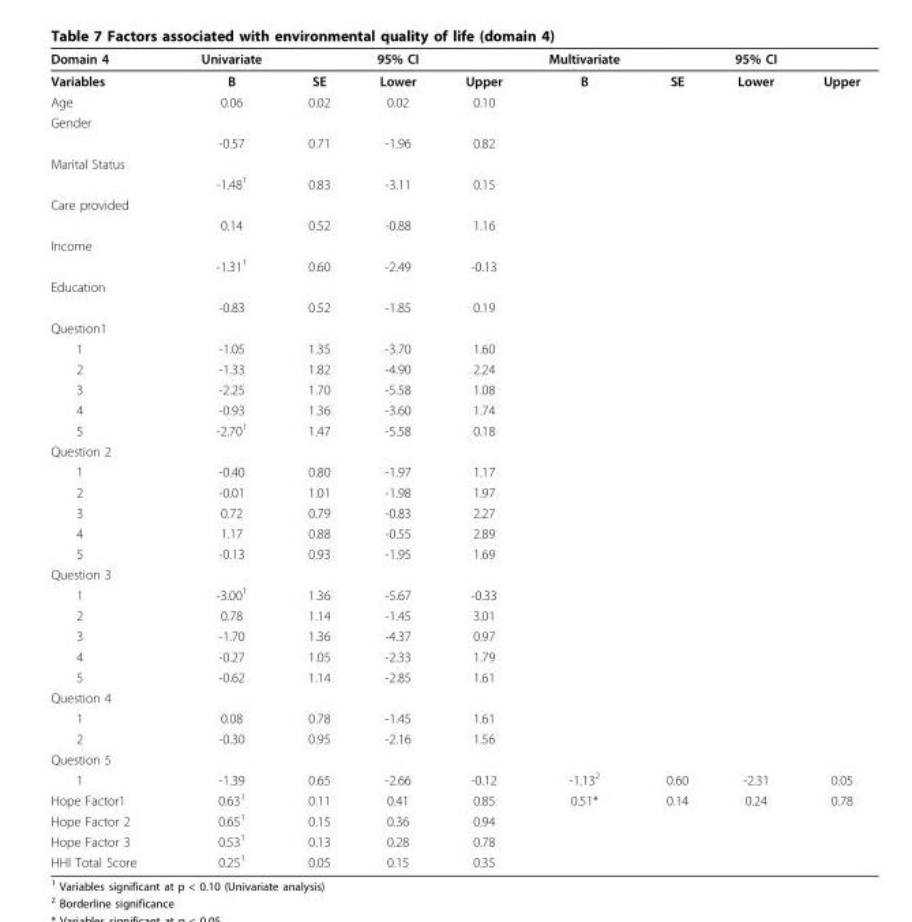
<table><thead><tr><td>Domain 4</td><td>Univariate</td><td></td><td>95% CI</td><td></td><td>Multivariate</td><td></td><td>95% CI</td><td></td></tr></thead><tbody><tr><td>Variables</td><td>B</td><td>SE</td><td>Lower</td><td>Upper</td><td>B</td><td>SE</td><td>Lower</td><td>Upper</td></tr><tr><td>Age</td><td>0.06</td><td>0.02</td><td>0.02</td><td>0.10</td><td></td><td></td><td></td><td></td></tr><tr><td colspan="9">Gender</td></tr><tr><td></td><td>-0.57</td><td>0.71</td><td>-1.96</td><td>0.82</td><td></td><td></td><td></td><td></td></tr><tr><td colspan="9">Marital Status</td></tr><tr><td></td><td>-1.48<sup>1</sup></td><td>0.83</td><td>-3.11</td><td>0.15</td><td></td><td></td><td></td><td></td></tr><tr><td colspan="9">Care provided</td></tr><tr><td></td><td>0.14</td><td>0.52</td><td>-0.88</td><td>1.16</td><td></td><td></td><td></td><td></td></tr><tr><td colspan="9">Income</td></tr><tr><td></td><td>-1.31<sup>1</sup></td><td>0.60</td><td>-2.49</td><td>-0.13</td><td></td><td></td><td></td><td></td></tr><tr><td colspan="9">Education</td></tr><tr><td></td><td>-0.83</td><td>0.52</td><td>-1.85</td><td>0.19</td><td></td><td></td><td></td><td></td></tr><tr><td colspan="9">Question1</td></tr><tr><td>1</td><td>-1.05</td><td>1.35</td><td>-3.70</td><td>1.60</td><td></td><td></td><td></td><td></td></tr><tr><td>2</td><td>-1.33</td><td>1.82</td><td>-4.90</td><td>2.24</td><td></td><td></td><td></td><td></td></tr><tr><td>3</td><td>-2.25</td><td>1.70</td><td>-5.58</td><td>1.08</td><td></td><td></td><td></td><td></td></tr><tr><td>4</td><td>-0.93</td><td>1.36</td><td>-3.60</td><td>1.74</td><td></td><td></td><td></td><td></td></tr><tr><td>5</td><td>-2.70<sup>1</sup></td><td>1.47</td><td>-5.58</td><td>0.18</td><td></td><td></td><td></td><td></td></tr><tr><td colspan="9">Question 2</td></tr><tr><td>1</td><td>-0.40</td><td>0.80</td><td>-1.97</td><td>1.17</td><td></td><td></td><td></td><td></td></tr><tr><td>2</td><td>-0.01</td><td>1.01</td><td>-1.98</td><td>1.97</td><td></td><td></td><td></td><td></td></tr><tr><td>3</td><td>0.72</td><td>0.79</td><td>-0.83</td><td>2.27</td><td></td><td></td><td></td><td></td></tr><tr><td>4</td><td>1.17</td><td>0.88</td><td>-0.55</td><td>2.89</td><td></td><td></td><td></td><td></td></tr><tr><td>5</td><td>-0.13</td><td>0.93</td><td>-1.95</td><td>1.69</td><td></td><td></td><td></td><td></td></tr><tr><td colspan="9">Question 3</td></tr><tr><td>1</td><td>-3.00<sup>1</sup></td><td>1.36</td><td>-5.67</td><td>-0.33</td><td></td><td></td><td></td><td></td></tr><tr><td>2</td><td>0.78</td><td>1.14</td><td>-1.45</td><td>3.01</td><td></td><td></td><td></td><td></td></tr><tr><td>3</td><td>-1.70</td><td>1.36</td><td>-4.37</td><td>0.97</td><td></td><td></td><td></td><td></td></tr><tr><td>4</td><td>-0.27</td><td>1.05</td><td>-2.33</td><td>1.79</td><td></td><td></td><td></td><td></td></tr><tr><td>5</td><td>-0.62</td><td>1.14</td><td>-2.85</td><td>1.61</td><td></td><td></td><td></td><td></td></tr><tr><td colspan="9">Question 4</td></tr><tr><td>1</td><td>0.08</td><td>0.78</td><td>-1.45</td><td>1.61</td><td></td><td></td><td></td><td></td></tr><tr><td>2</td><td>-0.30</td><td>0.95</td><td>-2.16</td><td>1.56</td><td></td><td></td><td></td><td></td></tr><tr><td colspan="9">Question 5</td></tr><tr><td>1</td><td>-1.39</td><td>0.65</td><td>-2.66</td><td>-0.12</td><td>-1.13<sup>2</sup></td><td>0.60</td><td>-2.31</td><td>0.05</td></tr><tr><td>Hope Factor1</td><td>0.63<sup>1</sup></td><td>0.11</td><td>0.41</td><td>0.85</td><td>0.51*</td><td>0.14</td><td>0.24</td><td>0.78</td></tr><tr><td>Hope Factor 2</td><td>0.65<sup>1</sup></td><td>0.15</td><td>0.36</td><td>0.94</td><td></td><td></td><td></td><td></td></tr><tr><td>Hope Factor 3</td><td>0.53<sup>1</sup></td><td>0.13</td><td>0.28</td><td>0.78</td><td></td><td></td><td></td><td></td></tr><tr><td>HHI Total Score</td><td>0.25<sup>1</sup></td><td>0.05</td><td>0.15</td><td>0.35</td><td></td><td></td><td></td><td></td></tr></tbody></table>